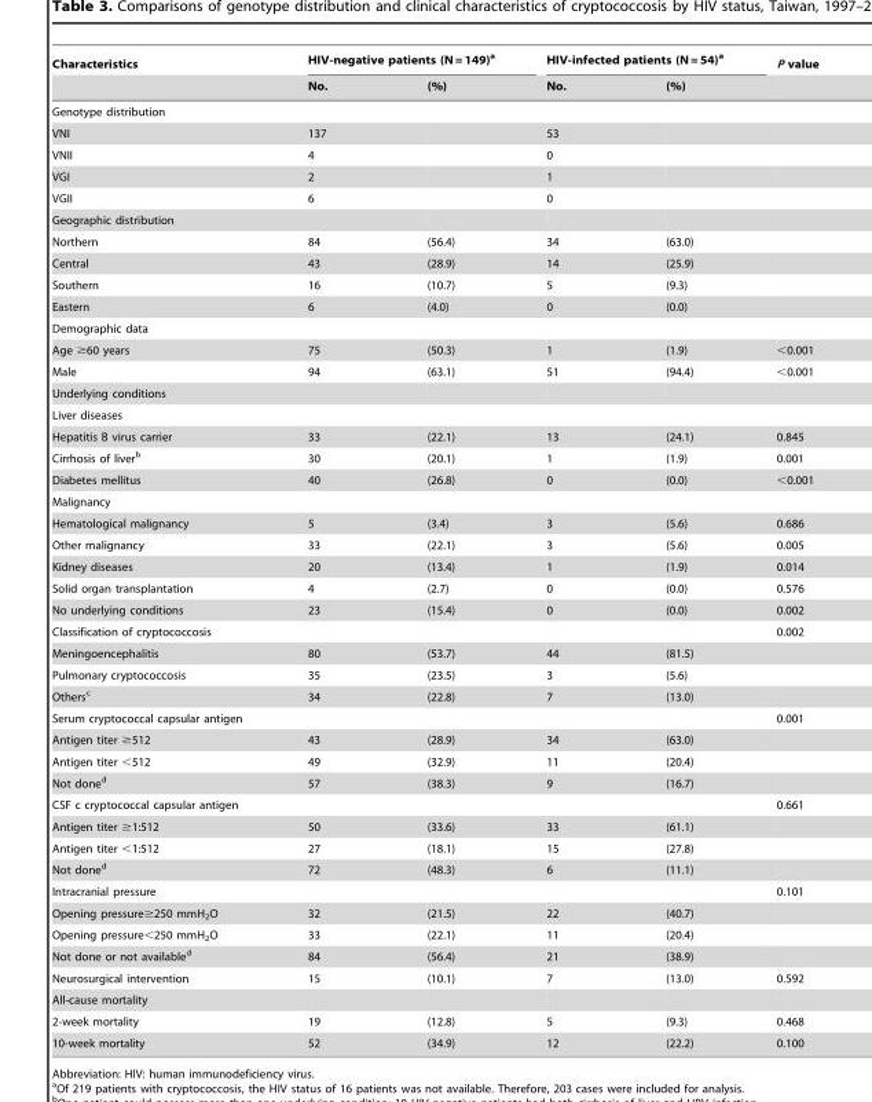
<table><thead><tr><td rowspan="2">Characteristics</td><td colspan="2">HIV-negative patients (N = 149)<sup>a</sup></td><td colspan="2">HIV-infected patients (N = 54)<sup>a</sup></td><td rowspan="2">P value</td></tr><tr><td>No.</td><td>(%)</td><td>No.</td><td>(%)</td></tr></thead><tbody><tr><td colspan="6">Genotype distribution</td></tr><tr><td>VNI</td><td>137</td><td></td><td>53</td><td></td><td></td></tr><tr><td>VNII</td><td>4</td><td></td><td>0</td><td></td><td></td></tr><tr><td>VGI</td><td>2</td><td></td><td>1</td><td></td><td></td></tr><tr><td>VGII</td><td>6</td><td></td><td>0</td><td></td><td></td></tr><tr><td colspan="6">Geographic distribution</td></tr><tr><td>Northern</td><td>84</td><td>(56.4)</td><td>34</td><td>(63.0)</td><td></td></tr><tr><td>Central</td><td>43</td><td>(28.9)</td><td>14</td><td>(25.9)</td><td></td></tr><tr><td>Southern</td><td>16</td><td>(10.7)</td><td>5</td><td>(9.3)</td><td></td></tr><tr><td>Eastern</td><td>6</td><td>(4.0)</td><td>0</td><td>(0.0)</td><td></td></tr><tr><td colspan="6">Demographic data</td></tr><tr><td>Age ≥60 years</td><td>75</td><td>(50.3)</td><td>1</td><td>(1.9)</td><td>&lt;0.001</td></tr><tr><td>Male</td><td>94</td><td>(63.1)</td><td>51</td><td>(94.4)</td><td>&lt;0.001</td></tr><tr><td colspan="6">Underlying conditions</td></tr><tr><td colspan="6">Liver diseases</td></tr><tr><td>Hepatitis B virus carrier</td><td>33</td><td>(22.1)</td><td>13</td><td>(24.1)</td><td>0.845</td></tr><tr><td>Cirrhosis of liver<sup>b</sup></td><td>30</td><td>(20.1)</td><td>1</td><td>(1.9)</td><td>0.001</td></tr><tr><td>Diabetes mellitus</td><td>40</td><td>(26.8)</td><td>0</td><td>(0.0)</td><td>&lt;0.001</td></tr><tr><td colspan="6">Malignancy</td></tr><tr><td>Hematological malignancy</td><td>5</td><td>(3.4)</td><td>3</td><td>(5.6)</td><td>0.686</td></tr><tr><td>Other malignancy</td><td>33</td><td>(22.1)</td><td>3</td><td>(5.6)</td><td>0.005</td></tr><tr><td>Kidney diseases</td><td>20</td><td>(13.4)</td><td>1</td><td>(1.9)</td><td>0.014</td></tr><tr><td>Solid organ transplantation</td><td>4</td><td>(2.7)</td><td>0</td><td>(0.0)</td><td>0.576</td></tr><tr><td>No underlying conditions</td><td>23</td><td>(15.4)</td><td>0</td><td>(0.0)</td><td>0.002</td></tr><tr><td>Classification of cryptococcosis</td><td></td><td></td><td></td><td></td><td>0.002</td></tr><tr><td>Meningoencephalitis</td><td>80</td><td>(53.7)</td><td>44</td><td>(81.5)</td><td></td></tr><tr><td>Pulmonary cryptococcosis</td><td>35</td><td>(23.5)</td><td>3</td><td>(5.6)</td><td></td></tr><tr><td>Others<sup>c</sup></td><td>34</td><td>(22.8)</td><td>7</td><td>(13.0)</td><td></td></tr><tr><td>Serum cryptococcal capsular antigen</td><td></td><td></td><td></td><td></td><td>0.001</td></tr><tr><td>Antigen titer ≥512</td><td>43</td><td>(28.9)</td><td>34</td><td>(63.0)</td><td></td></tr><tr><td>Antigen titer &lt;512</td><td>49</td><td>(32.9)</td><td>11</td><td>(20.4)</td><td></td></tr><tr><td>Not done<sup>d</sup></td><td>57</td><td>(38.3)</td><td>9</td><td>(16.7)</td><td></td></tr><tr><td>CSF c cryptococcal capsular antigen</td><td></td><td></td><td></td><td></td><td>0.661</td></tr><tr><td>Antigen titer ≥1:512</td><td>50</td><td>(33.6)</td><td>33</td><td>(61.1)</td><td></td></tr><tr><td>Antigen titer &lt;1:512</td><td>27</td><td>(18.1)</td><td>15</td><td>(27.8)</td><td></td></tr><tr><td>Not done<sup>d</sup></td><td>72</td><td>(48.3)</td><td>6</td><td>(11.1)</td><td></td></tr><tr><td>Intracranial pressure</td><td></td><td></td><td></td><td></td><td>0.101</td></tr><tr><td>Opening pressure≥250 mmH<sub>2</sub>O</td><td>32</td><td>(21.5)</td><td>22</td><td>(40.7)</td><td></td></tr><tr><td>Opening pressure&lt;250 mmH<sub>2</sub>O</td><td>33</td><td>(22.1)</td><td>11</td><td>(20.4)</td><td></td></tr><tr><td>Not done or not available<sup>d</sup></td><td>84</td><td>(56.4)</td><td>21</td><td>(38.9)</td><td></td></tr><tr><td>Neurosurgical intervention</td><td>15</td><td>(10.1)</td><td>7</td><td>(13.0)</td><td>0.592</td></tr><tr><td colspan="6">All-cause mortality</td></tr><tr><td>2-week mortality</td><td>19</td><td>(12.8)</td><td>5</td><td>(9.3)</td><td>0.468</td></tr><tr><td>10-week mortality</td><td>52</td><td>(34.9)</td><td>12</td><td>(22.2)</td><td>0.100</td></tr></tbody></table>